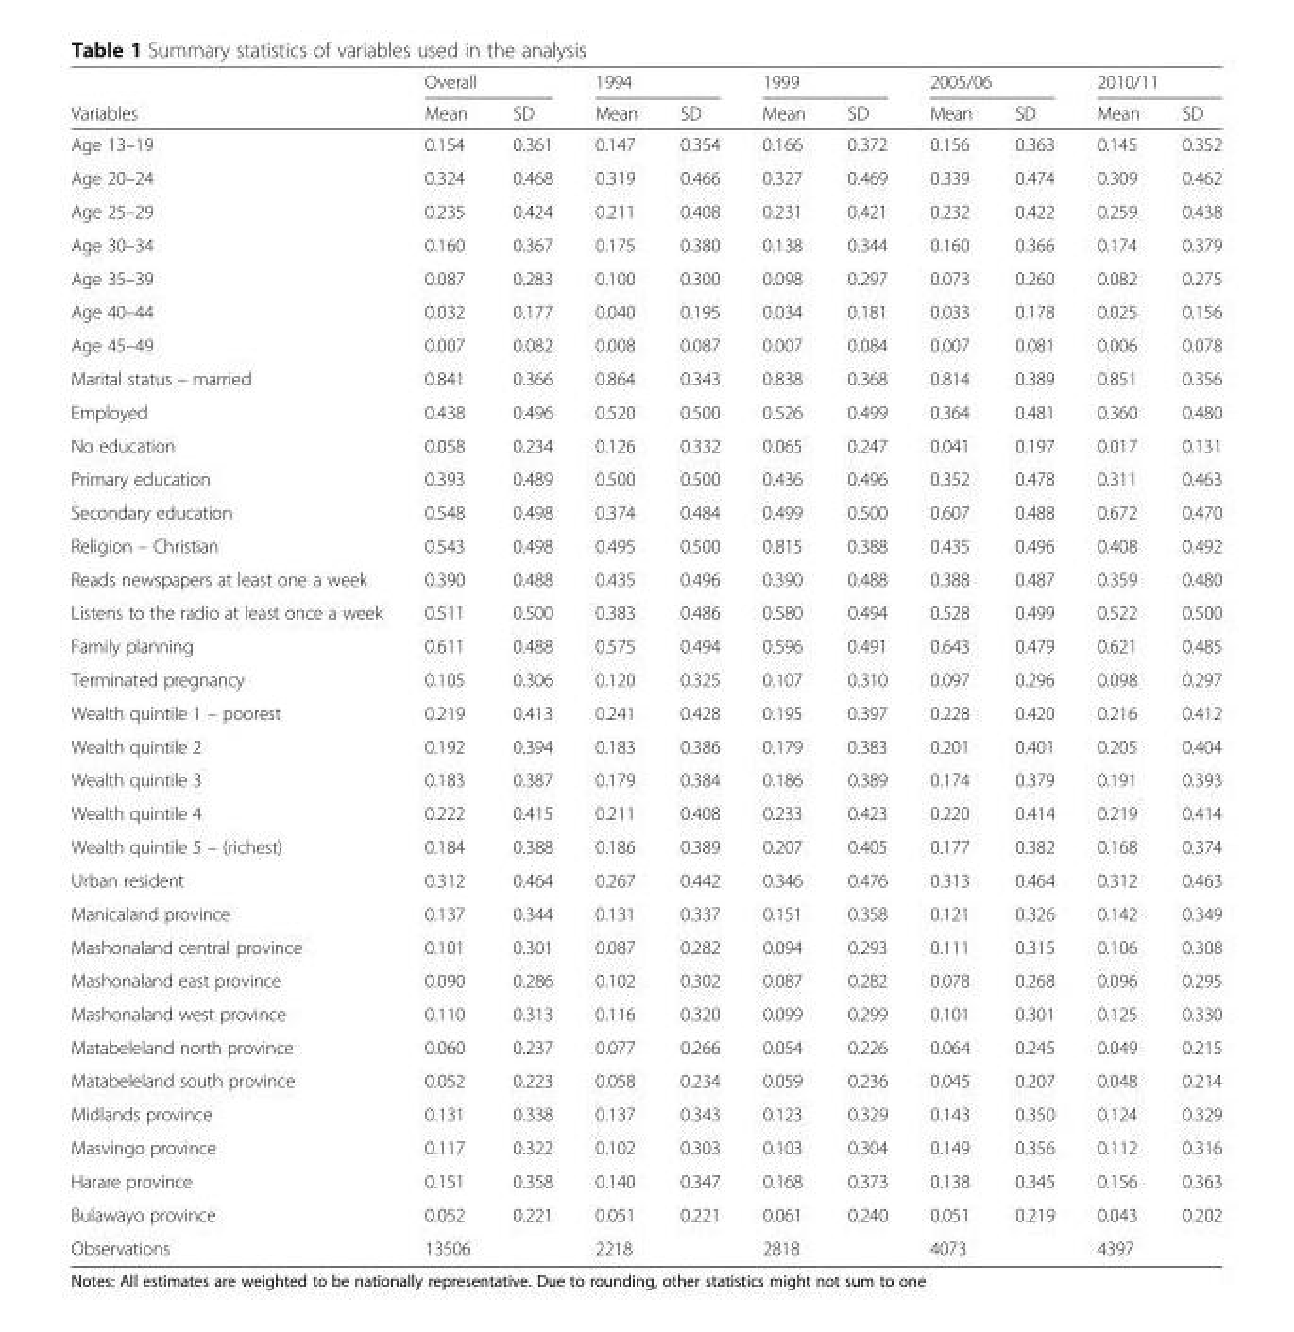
<table><thead><tr><td rowspan="2">Variables</td><td colspan="2">Overall</td><td colspan="2">1994</td><td colspan="2">1999</td><td colspan="2">2005/06</td><td colspan="2">2010/11</td></tr><tr><td>Mean</td><td>SD</td><td>Mean</td><td>SD</td><td>Mean</td><td>SD</td><td>Mean</td><td>SD</td><td>Mean</td><td>SD</td></tr></thead><tbody><tr><td>Age 13–19</td><td>0.154</td><td>0.361</td><td>0.147</td><td>0.354</td><td>0.166</td><td>0.372</td><td>0.156</td><td>0.363</td><td>0.145</td><td>0.352</td></tr><tr><td>Age 20–24</td><td>0.324</td><td>0.468</td><td>0.319</td><td>0.466</td><td>0.327</td><td>0.469</td><td>0.339</td><td>0.474</td><td>0.309</td><td>0.462</td></tr><tr><td>Age 25–29</td><td>0.235</td><td>0.424</td><td>0.211</td><td>0.408</td><td>0.231</td><td>0.421</td><td>0.232</td><td>0.422</td><td>0.259</td><td>0.438</td></tr><tr><td>Age 30–34</td><td>0.160</td><td>0.367</td><td>0.175</td><td>0.380</td><td>0.138</td><td>0.344</td><td>0.160</td><td>0.366</td><td>0.174</td><td>0.379</td></tr><tr><td>Age 35–39</td><td>0.087</td><td>0.283</td><td>0.100</td><td>0.300</td><td>0.098</td><td>0.297</td><td>0.073</td><td>0.260</td><td>0.082</td><td>0.275</td></tr><tr><td>Age 40–44</td><td>0.032</td><td>0.177</td><td>0.040</td><td>0.195</td><td>0.034</td><td>0.181</td><td>0.033</td><td>0.178</td><td>0.025</td><td>0.156</td></tr><tr><td>Age 45–49</td><td>0.007</td><td>0.082</td><td>0.008</td><td>0.087</td><td>0.007</td><td>0.084</td><td>0.007</td><td>0.081</td><td>0.006</td><td>0.078</td></tr><tr><td>Marital status – married</td><td>0.841</td><td>0.366</td><td>0.864</td><td>0.343</td><td>0.838</td><td>0.368</td><td>0.814</td><td>0.389</td><td>0.851</td><td>0.356</td></tr><tr><td>Employed</td><td>0.438</td><td>0.496</td><td>0.520</td><td>0.500</td><td>0.526</td><td>0.499</td><td>0.364</td><td>0.481</td><td>0.360</td><td>0.480</td></tr><tr><td>No education</td><td>0.058</td><td>0.234</td><td>0.126</td><td>0.332</td><td>0.065</td><td>0.247</td><td>0.041</td><td>0.197</td><td>0.017</td><td>0.131</td></tr><tr><td>Primary education</td><td>0.393</td><td>0.489</td><td>0.500</td><td>0.500</td><td>0.436</td><td>0.496</td><td>0.352</td><td>0.478</td><td>0.311</td><td>0.463</td></tr><tr><td>Secondary education</td><td>0.548</td><td>0.498</td><td>0.374</td><td>0.484</td><td>0.499</td><td>0.500</td><td>0.607</td><td>0.488</td><td>0.672</td><td>0.470</td></tr><tr><td>Religion – Christian</td><td>0.543</td><td>0.498</td><td>0.495</td><td>0.500</td><td>0.815</td><td>0.388</td><td>0.435</td><td>0.496</td><td>0.408</td><td>0.492</td></tr><tr><td>Reads newspapers at least one a week</td><td>0.390</td><td>0.488</td><td>0.435</td><td>0.496</td><td>0.390</td><td>0.488</td><td>0.388</td><td>0.487</td><td>0.359</td><td>0.480</td></tr><tr><td>Listens to the radio at least once a week</td><td>0.511</td><td>0.500</td><td>0.383</td><td>0.486</td><td>0.580</td><td>0.494</td><td>0.528</td><td>0.499</td><td>0.522</td><td>0.500</td></tr><tr><td>Family planning</td><td>0.611</td><td>0.488</td><td>0.575</td><td>0.494</td><td>0.596</td><td>0.491</td><td>0.643</td><td>0.479</td><td>0.621</td><td>0.485</td></tr><tr><td>Terminated pregnancy</td><td>0.105</td><td>0.306</td><td>0.120</td><td>0.325</td><td>0.107</td><td>0.310</td><td>0.097</td><td>0.296</td><td>0.098</td><td>0.297</td></tr><tr><td>Wealth quintile 1 – poorest</td><td>0.219</td><td>0.413</td><td>0.241</td><td>0.428</td><td>0.195</td><td>0.397</td><td>0.228</td><td>0.420</td><td>0.216</td><td>0.412</td></tr><tr><td>Wealth quintile 2</td><td>0.192</td><td>0.394</td><td>0.183</td><td>0.386</td><td>0.179</td><td>0.383</td><td>0.201</td><td>0.401</td><td>0.205</td><td>0.404</td></tr><tr><td>Wealth quintile 3</td><td>0.183</td><td>0.387</td><td>0.179</td><td>0.384</td><td>0.186</td><td>0.389</td><td>0.174</td><td>0.379</td><td>0.191</td><td>0.393</td></tr><tr><td>Wealth quintile 4</td><td>0.222</td><td>0.415</td><td>0.211</td><td>0.408</td><td>0.233</td><td>0.423</td><td>0.220</td><td>0.414</td><td>0.219</td><td>0.414</td></tr><tr><td>Wealth quintile 5 – (richest)</td><td>0.184</td><td>0.388</td><td>0.186</td><td>0.389</td><td>0.207</td><td>0.405</td><td>0.177</td><td>0.382</td><td>0.168</td><td>0.374</td></tr><tr><td>Urban resident</td><td>0.312</td><td>0.464</td><td>0.267</td><td>0.442</td><td>0.346</td><td>0.476</td><td>0.313</td><td>0.464</td><td>0.312</td><td>0.463</td></tr><tr><td>Manicaland province</td><td>0.137</td><td>0.344</td><td>0.131</td><td>0.337</td><td>0.151</td><td>0.358</td><td>0.121</td><td>0.326</td><td>0.142</td><td>0.349</td></tr><tr><td>Mashonaland central province</td><td>0.101</td><td>0.301</td><td>0.087</td><td>0.282</td><td>0.094</td><td>0.293</td><td>0.111</td><td>0.315</td><td>0.106</td><td>0.308</td></tr><tr><td>Mashonaland east province</td><td>0.090</td><td>0.286</td><td>0.102</td><td>0.302</td><td>0.087</td><td>0.282</td><td>0.078</td><td>0.268</td><td>0.096</td><td>0.295</td></tr><tr><td>Mashonaland west province</td><td>0.110</td><td>0.313</td><td>0.116</td><td>0.320</td><td>0.099</td><td>0.299</td><td>0.101</td><td>0.301</td><td>0.125</td><td>0.330</td></tr><tr><td>Matabeleland north province</td><td>0.060</td><td>0.237</td><td>0.077</td><td>0.266</td><td>0.054</td><td>0.226</td><td>0.064</td><td>0.245</td><td>0.049</td><td>0.215</td></tr><tr><td>Matabeleland south province</td><td>0.052</td><td>0.223</td><td>0.058</td><td>0.234</td><td>0.059</td><td>0.236</td><td>0.045</td><td>0.207</td><td>0.048</td><td>0.214</td></tr><tr><td>Midlands province</td><td>0.131</td><td>0.338</td><td>0.137</td><td>0.343</td><td>0.123</td><td>0.329</td><td>0.143</td><td>0.350</td><td>0.124</td><td>0.329</td></tr><tr><td>Masvingo province</td><td>0.117</td><td>0.322</td><td>0.102</td><td>0.303</td><td>0.103</td><td>0.304</td><td>0.149</td><td>0.356</td><td>0.112</td><td>0.316</td></tr><tr><td>Harare province</td><td>0.151</td><td>0.358</td><td>0.140</td><td>0.347</td><td>0.168</td><td>0.373</td><td>0.138</td><td>0.345</td><td>0.156</td><td>0.363</td></tr><tr><td>Bulawayo province</td><td>0.052</td><td>0.221</td><td>0.051</td><td>0.221</td><td>0.061</td><td>0.240</td><td>0.051</td><td>0.219</td><td>0.043</td><td>0.202</td></tr><tr><td>Observations</td><td>13506</td><td></td><td>2218</td><td></td><td>2818</td><td></td><td>4073</td><td></td><td>4397</td><td></td></tr></tbody></table>